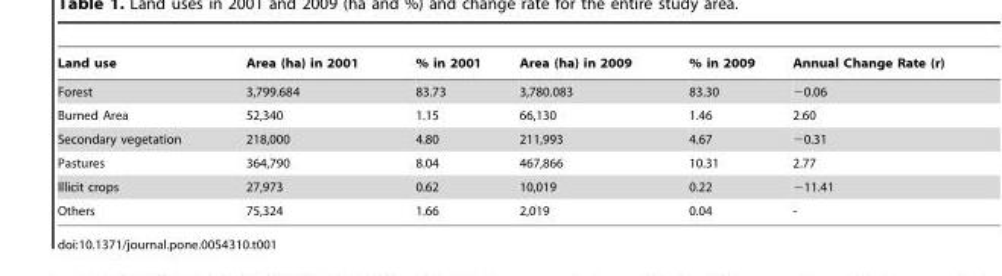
<table><thead><tr><td>Land use</td><td>Area (ha) in 2001</td><td>% in 2001</td><td>Area (ha) in 2009</td><td>% in 2009</td><td>Annual Change Rate (r)</td></tr></thead><tbody><tr><td>Forest</td><td>3,799.684</td><td>83.73</td><td>3,780.083</td><td>83.30</td><td>−0.06</td></tr><tr><td>Burned Area</td><td>52,340</td><td>1.15</td><td>66,130</td><td>1.46</td><td>2.60</td></tr><tr><td>Secondary vegetation</td><td>218,000</td><td>4.80</td><td>211,993</td><td>4.67</td><td>−0.31</td></tr><tr><td>Pastures</td><td>364,790</td><td>8.04</td><td>467,866</td><td>10.31</td><td>2.77</td></tr><tr><td>Illicit crops</td><td>27,973</td><td>0.62</td><td>10,019</td><td>0.22</td><td>−11.41</td></tr><tr><td>Others</td><td>75,324</td><td>1.66</td><td>2,019</td><td>0.04</td><td>-</td></tr></tbody></table>